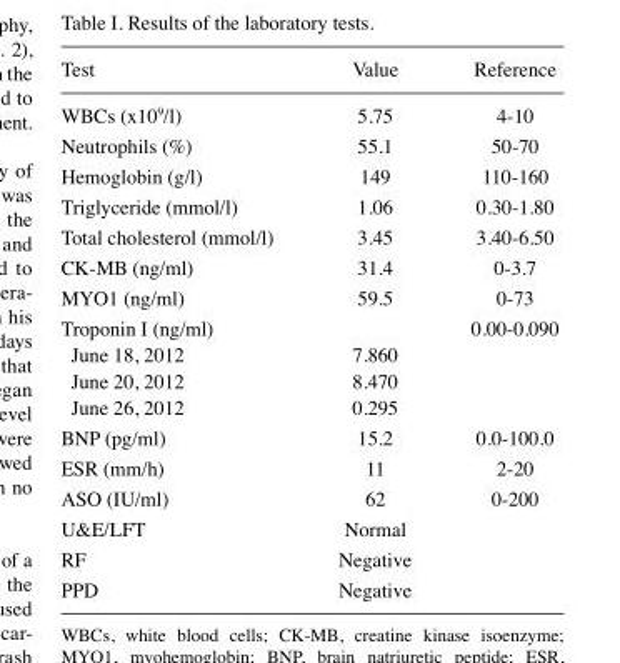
<table><thead><tr><td>Test</td><td>Value</td><td>Reference</td></tr></thead><tbody><tr><td>WBCs (x10<sup>9</sup>/l)</td><td>5.75</td><td>4-10</td></tr><tr><td>Neutrophils (%)</td><td>55.1</td><td>50-70</td></tr><tr><td>Hemoglobin (g/l)</td><td>149</td><td>110-160</td></tr><tr><td>Triglyceride (mmol/l)</td><td>1.06</td><td>0.30-1.80</td></tr><tr><td>Total cholesterol (mmol/l)</td><td>3.45</td><td>3.40-6.50</td></tr><tr><td>CK-MB (ng/ml)</td><td>31.4</td><td>0-3.7</td></tr><tr><td>MYO1 (ng/ml)</td><td>59.5</td><td>0-73</td></tr><tr><td>Troponin I (ng/ml)</td><td></td><td>0.00-0.090</td></tr><tr><td>June 18, 2012</td><td>7.860</td><td></td></tr><tr><td>June 20, 2012</td><td>8.470</td><td></td></tr><tr><td>June 26, 2012</td><td>0.295</td><td></td></tr><tr><td>BNP (pg/ml)</td><td>15.2</td><td>0.0-100.0</td></tr><tr><td>ESR (mm/h)</td><td>11</td><td>2-20</td></tr><tr><td>ASO (IU/ml)</td><td>62</td><td>0-200</td></tr><tr><td>U&amp;E/LFT</td><td>Normal</td><td></td></tr><tr><td>RF</td><td>Negative</td><td></td></tr><tr><td>PPD</td><td>Negative</td><td></td></tr></tbody></table>